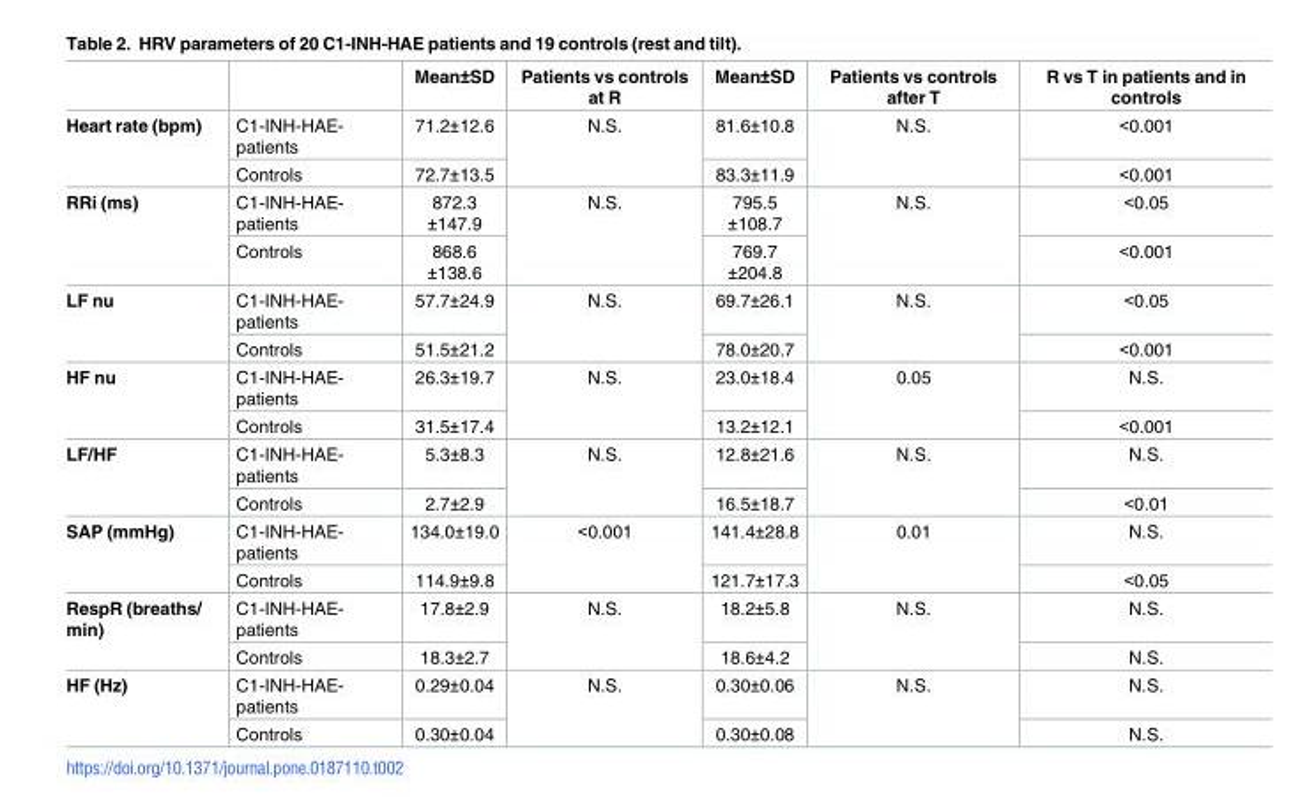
<table><thead><tr><td></td><td></td><td>Mean±SD</td><td>Patients vs controls at R</td><td>Mean±SD</td><td>Patients vs controls after T</td><td>R vs T in patients and in controls</td></tr></thead><tbody><tr><td rowspan="2">Heart rate (bpm)</td><td>C1-INH-HAE- patients</td><td>71.2±12.6</td><td rowspan="2">N.S.</td><td>81.6±10.8</td><td rowspan="2">N.S.</td><td>&lt;0.001</td></tr><tr><td>Controls</td><td>72.7±13.5</td><td>83.3±11.9</td><td>&lt;0.001</td></tr><tr><td rowspan="2">RRi (ms)</td><td>C1-INH-HAE- patients</td><td>872.3 ±147.9</td><td rowspan="2">N.S.</td><td>795.5 ±108.7</td><td rowspan="2">N.S.</td><td>&lt;0.05</td></tr><tr><td>Controls</td><td>868.6 ±138.6</td><td>769.7 ±204.8</td><td>&lt;0.001</td></tr><tr><td rowspan="2">LF nu</td><td>C1-INH-HAE- patients</td><td>57.7±24.9</td><td rowspan="2">N.S.</td><td>69.7±26.1</td><td rowspan="2">N.S.</td><td>&lt;0.05</td></tr><tr><td>Controls</td><td>51.5±21.2</td><td>78.0±20.7</td><td>&lt;0.001</td></tr><tr><td rowspan="2">HF nu</td><td>C1-INH-HAE- patients</td><td>26.3±19.7</td><td rowspan="2">N.S.</td><td>23.0±18.4</td><td rowspan="2">0.05</td><td>N.S.</td></tr><tr><td>Controls</td><td>31.5±17.4</td><td>13.2±12.1</td><td>&lt;0.001</td></tr><tr><td rowspan="2">LF/HF</td><td>C1-INH-HAE- patients</td><td>5.3±8.3</td><td rowspan="2">N.S.</td><td>12.8±21.6</td><td rowspan="2">N.S.</td><td>N.S.</td></tr><tr><td>Controls</td><td>2.7±2.9</td><td>16.5±18.7</td><td>&lt;0.01</td></tr><tr><td rowspan="2">SAP (mmHg)</td><td>C1-INH-HAE- patients</td><td>134.0±19.0</td><td rowspan="2">&lt;0.001</td><td>141.4±28.8</td><td rowspan="2">0.01</td><td>N.S.</td></tr><tr><td>Controls</td><td>114.9±9.8</td><td>121.7±17.3</td><td>&lt;0.05</td></tr><tr><td rowspan="2">RespR (breaths/ min)</td><td>C1-INH-HAE- patients</td><td>17.8±2.9</td><td rowspan="2">N.S.</td><td>18.2±5.8</td><td rowspan="2">N.S.</td><td>N.S.</td></tr><tr><td>Controls</td><td>18.3±2.7</td><td>18.6±4.2</td><td>N.S.</td></tr><tr><td rowspan="2">HF (Hz)</td><td>C1-INH-HAE- patients</td><td>0.29±0.04</td><td rowspan="2">N.S.</td><td>0.30±0.06</td><td rowspan="2">N.S.</td><td>N.S.</td></tr><tr><td>Controls</td><td>0.30±0.04</td><td>0.30±0.08</td><td>N.S.</td></tr></tbody></table>